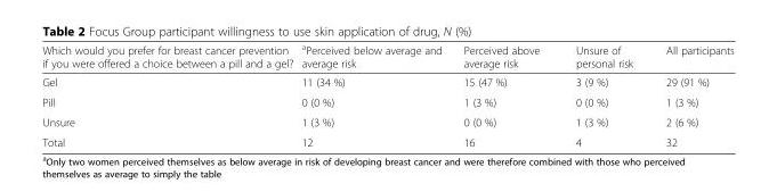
<table><thead><tr><td>Which would you prefer for breast cancer prevention if you were offered a choice between a pill and a gel?</td><td><sup>a</sup>Perceived below average and average risk</td><td>Perceived above average risk</td><td>Unsure of personal risk</td><td>All participants</td></tr></thead><tbody><tr><td>Gel</td><td>11 (34 %)</td><td>15 (47 %)</td><td>3 (9 %)</td><td>29 (91 %)</td></tr><tr><td>Pill</td><td>0 (0 %)</td><td>1 (3 %)</td><td>0 (0 %)</td><td>1 (3 %)</td></tr><tr><td>Unsure</td><td>1 (3 %)</td><td>0 (0 %)</td><td>1 (3 %)</td><td>2 (6 %)</td></tr><tr><td>Total</td><td>12</td><td>16</td><td>4</td><td>32</td></tr></tbody></table>